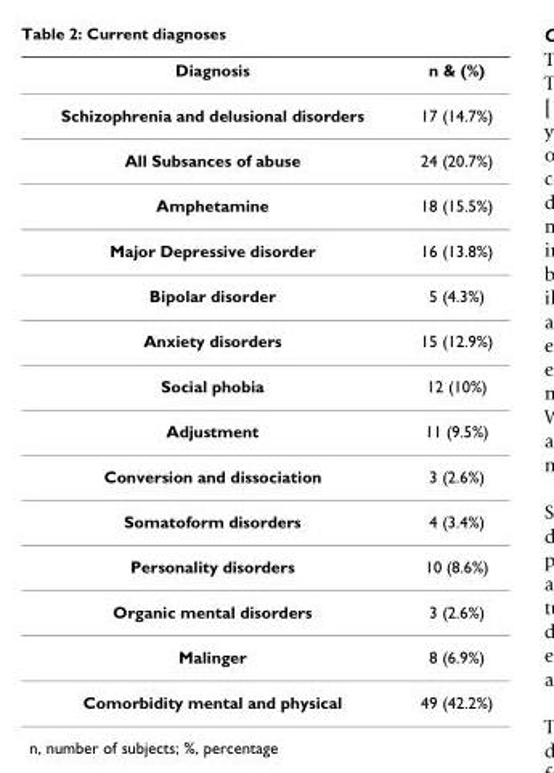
<table><thead><tr><td>Diagnosis</td><td>n &amp; (%)</td></tr></thead><tbody><tr><td>Schizophrenia and delusional disorders</td><td>17 (14.7%)</td></tr><tr><td>All Subsances of abuse</td><td>24 (20.7%)</td></tr><tr><td>Amphetamine</td><td>18 (15.5%)</td></tr><tr><td>Major Depressive disorder</td><td>16 (13.8%)</td></tr><tr><td>Bipolar disorder</td><td>5 (4.3%)</td></tr><tr><td>Anxiety disorders</td><td>15 (12.9%)</td></tr><tr><td>Social phobia</td><td>12 (10%)</td></tr><tr><td>Adjustment</td><td>11 (9.5%)</td></tr><tr><td>Conversion and dissociation</td><td>3 (2.6%)</td></tr><tr><td>Somatoform disorders</td><td>4 (3.4%)</td></tr><tr><td>Personality disorders</td><td>10 (8.6%)</td></tr><tr><td>Organic mental disorders</td><td>3 (2.6%)</td></tr><tr><td>Malinger</td><td>8 (6.9%)</td></tr><tr><td>Comorbidity mental and physical</td><td>49 (42.2%)</td></tr></tbody></table>